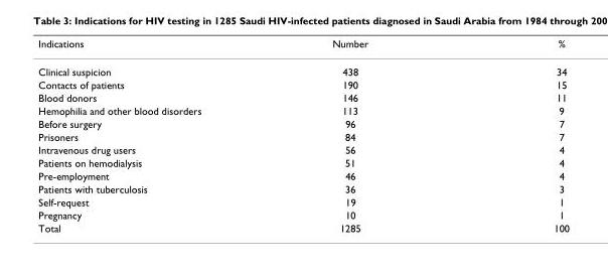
<table><thead><tr><td>Indications</td><td>Number</td><td>%</td></tr></thead><tbody><tr><td>Clinical suspicion</td><td>438</td><td>34</td></tr><tr><td>Contacts of patients</td><td>190</td><td>15</td></tr><tr><td>Blood donors</td><td>146</td><td>11</td></tr><tr><td>Hemophilia and other blood disorders</td><td>113</td><td>9</td></tr><tr><td>Before surgery</td><td>96</td><td>7</td></tr><tr><td>Prisoners</td><td>84</td><td>7</td></tr><tr><td>Intravenous drug users</td><td>56</td><td>4</td></tr><tr><td>Patients on hemodialysis</td><td>51</td><td>4</td></tr><tr><td>Pre-employment</td><td>46</td><td>4</td></tr><tr><td>Patients with tuberculosis</td><td>36</td><td>3</td></tr><tr><td>Self-request</td><td>19</td><td>1</td></tr><tr><td>Pregnancy</td><td>10</td><td>1</td></tr><tr><td>Total</td><td>1285</td><td>100</td></tr></tbody></table>